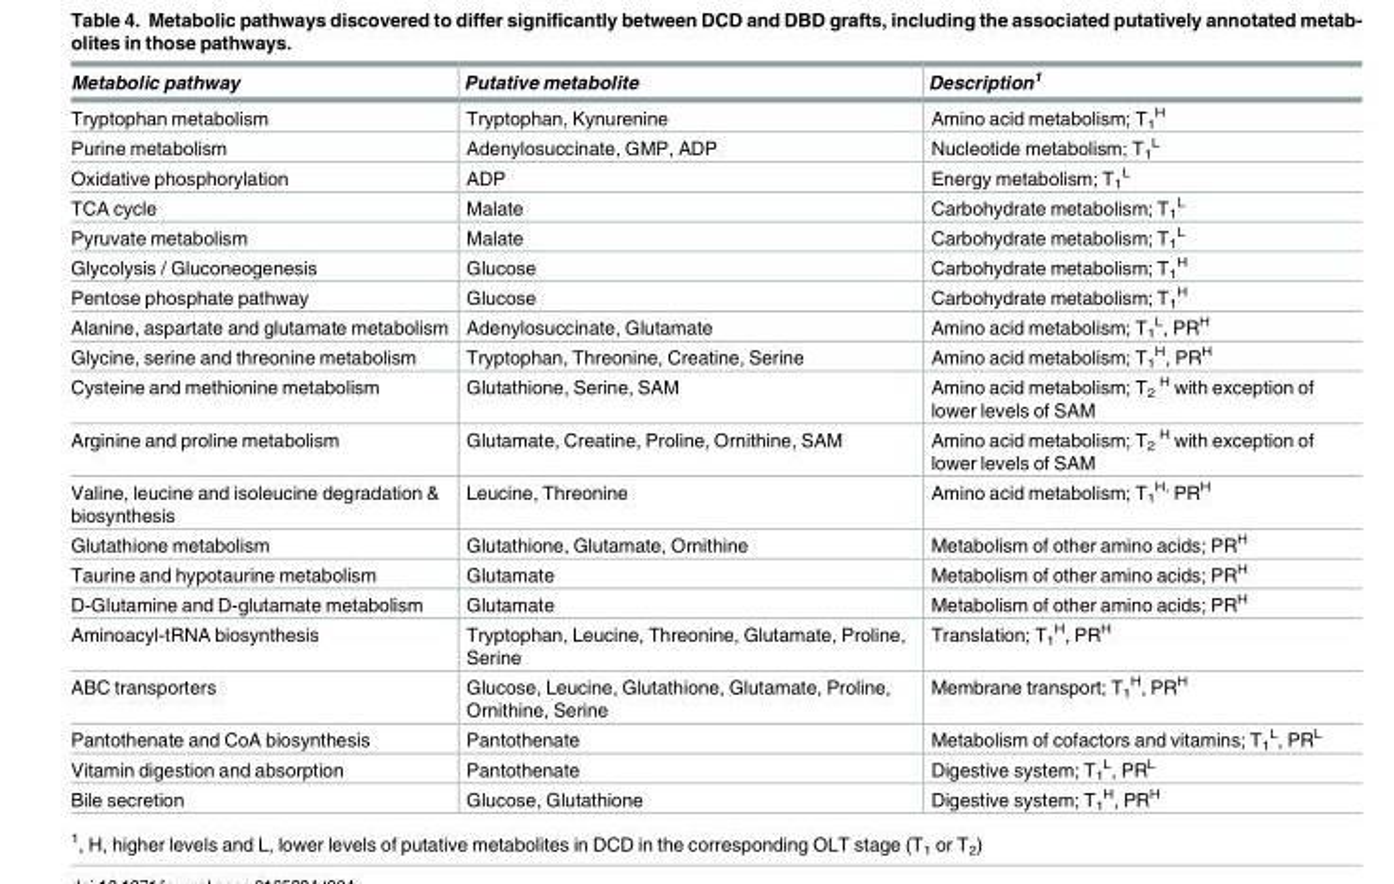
<table><thead><tr><td>Metabolic pathway</td><td>Putative metabolite</td><td>Description<sup>1</sup></td></tr></thead><tbody><tr><td>Tryptophan metabolism</td><td>Tryptophan, Kynurenine</td><td>Amino acid metabolism; T<sub>1</sub> <sup>H</sup></td></tr><tr><td>Purine metabolism</td><td>Adenylosuccinate, GMP, ADP</td><td>Nucleotide metabolism; T<sub>1</sub> <sup>L</sup></td></tr><tr><td>Oxidative phosphorylation</td><td>ADP</td><td>Energy metabolism; T<sub>1</sub> <sup>L</sup></td></tr><tr><td>TCA cycle</td><td>Malate</td><td>Carbohydrate metabolism; T<sub>1</sub> <sup>L</sup></td></tr><tr><td>Pyruvate metabolism</td><td>Malate</td><td>Carbohydrate metabolism; T<sub>1</sub> <sup>L</sup></td></tr><tr><td>Glycolysis / Gluconeogenesis</td><td>Glucose</td><td>Carbohydrate metabolism; T<sub>1</sub> <sup>H</sup></td></tr><tr><td>Pentose phosphate pathway</td><td>Glucose</td><td>Carbohydrate metabolism; T<sub>1</sub> <sup>H</sup></td></tr><tr><td>Alanine, aspartate and glutamate metabolism</td><td>Adenylosuccinate, Glutamate</td><td>Amino acid metabolism; T<sub>1</sub> <sup>L</sup>, PR<sup>H</sup></td></tr><tr><td>Glycine, serine and threonine metabolism</td><td>Tryptophan, Threonine, Creatine, Serine</td><td>Amino acid metabolism; T<sub>1</sub> <sup>H</sup>, PR<sup>H</sup></td></tr><tr><td>Cysteine and methionine metabolism</td><td>Glutathione, Serine, SAM</td><td>Amino acid metabolism; T<sub>2</sub> <sup>H</sup> with exception of lower levels of SAM</td></tr><tr><td>Arginine and proline metabolism</td><td>Glutamate, Creatine, Proline, Ornithine, SAM</td><td>Amino acid metabolism; T<sub>2</sub> <sup>H</sup> with exception of lower levels of SAM</td></tr><tr><td>Valine, leucine and isoleucine degradation &amp; biosynthesis</td><td>Leucine, Threonine</td><td>Amino acid metabolism; T<sub>1</sub> <sup>H,</sup> PR<sup>H</sup></td></tr><tr><td>Glutathione metabolism</td><td>Glutathione, Glutamate, Ornithine</td><td>Metabolism of other amino acids; PR<sup>H</sup></td></tr><tr><td>Taurine and hypotaurine metabolism</td><td>Glutamate</td><td>Metabolism of other amino acids; PR<sup>H</sup></td></tr><tr><td>D-Glutamine and D-glutamate metabolism</td><td>Glutamate</td><td>Metabolism of other amino acids; PR<sup>H</sup></td></tr><tr><td>Aminoacyl-tRNA biosynthesis</td><td>Tryptophan, Leucine, Threonine, Glutamate, Proline, Serine</td><td>Translation; T<sub>1</sub> <sup>H</sup>, PR<sup>H</sup></td></tr><tr><td>ABC transporters</td><td>Glucose, Leucine, Glutathione, Glutamate, Proline, Ornithine, Serine</td><td>Membrane transport; T<sub>1</sub> <sup>H</sup>, PR<sup>H</sup></td></tr><tr><td>Pantothenate and CoA biosynthesis</td><td>Pantothenate</td><td>Metabolism of cofactors and vitamins; T<sub>1</sub> <sup>L</sup>, PR<sup>L</sup></td></tr><tr><td>Vitamin digestion and absorption</td><td>Pantothenate</td><td>Digestive system; T<sub>1</sub> <sup>L</sup>, PR<sup>L</sup></td></tr><tr><td>Bile secretion</td><td>Glucose, Glutathione</td><td>Digestive system; T<sub>1</sub> <sup>H</sup>, PR<sup>H</sup></td></tr></tbody></table>